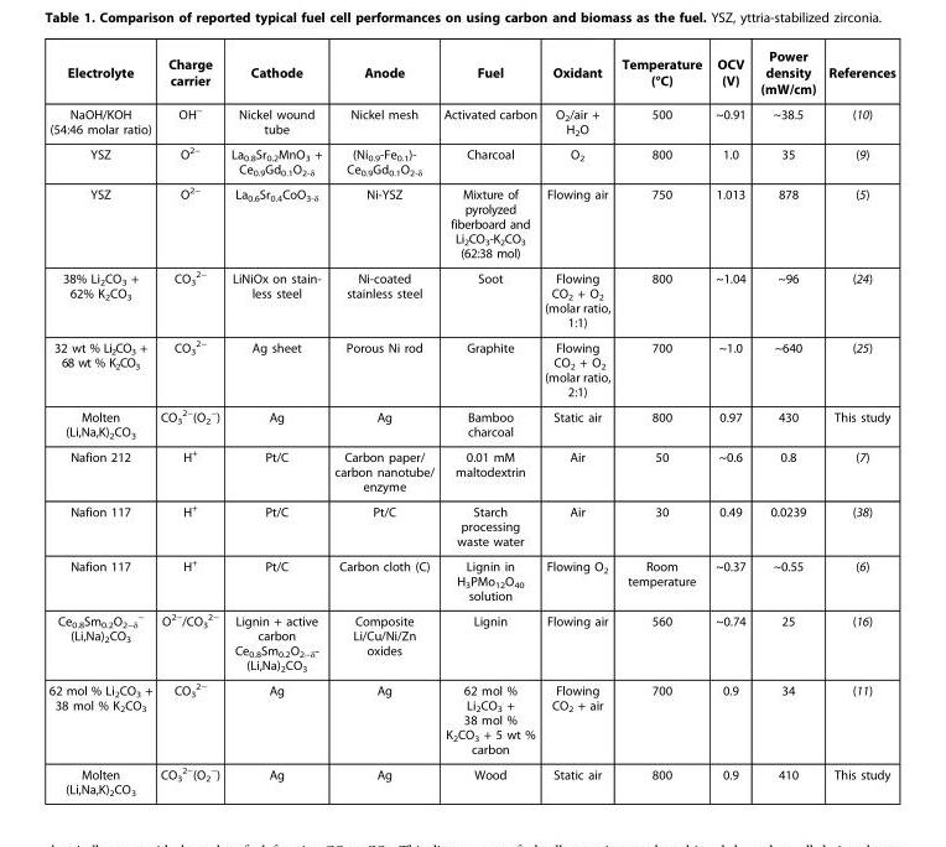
<table><thead><tr><td>Electrolyte</td><td>Charge carrier</td><td>Cathode</td><td>Anode</td><td>Fuel</td><td>Oxidant</td><td>Temperature (°C)</td><td>OCV (V)</td><td>Power density (mW/cm)</td><td>References</td></tr></thead><tbody><tr><td>NaOH/KOH (54:46 molar ratio)</td><td>OH<sup>−</sup></td><td>Nickel wound tube</td><td>Nickel mesh</td><td>Activated carbon</td><td>O<sub>2</sub>/air + H<sub>2</sub>O</td><td>500</td><td>~0.91</td><td>~38.5</td><td>(10)</td></tr><tr><td>YSZ</td><td>O<sup>2−</sup></td><td>La<sub>0.8</sub>Sr<sub>0.2</sub>MnO<sub>3</sub> + Ce<sub>0.9</sub>Gd<sub>0.1</sub>O<sub>2-δ</sub></td><td>(Ni<sub>0.9</sub>-Fe<sub>0.1</sub>)- Ce<sub>0.9</sub>Gd<sub>0.1</sub>O<sub>2-δ</sub></td><td>Charcoal</td><td>O<sub>2</sub></td><td>800</td><td>1.0</td><td>35</td><td>(9)</td></tr><tr><td>YSZ</td><td>O<sup>2−</sup></td><td>La<sub>0.6</sub>Sr<sub>0.4</sub>CoO<sub>3-δ</sub></td><td>Ni-YSZ</td><td>Mixture of pyrolyzed fiberboard and Li<sub>2</sub>CO<sub>3</sub>-K<sub>2</sub>CO<sub>3</sub> (62:38 mol)</td><td>Flowing air</td><td>750</td><td>1.013</td><td>878</td><td>(5)</td></tr><tr><td>38% Li<sub>2</sub>CO<sub>3</sub> + 62% K<sub>2</sub>CO<sub>3</sub></td><td>CO<sub>3</sub> <sup>2−</sup></td><td>LiNiOx on stain- less steel</td><td>Ni-coated stainless steel</td><td>Soot</td><td>Flowing CO<sub>2</sub> + O<sub>2</sub> (molar ratio, 1:1)</td><td>800</td><td>~1.04</td><td>~96</td><td>(24)</td></tr><tr><td>32 wt % Li<sub>2</sub>CO<sub>3</sub> + 68 wt % K<sub>2</sub>CO<sub>3</sub></td><td>CO<sub>3</sub> <sup>2−</sup></td><td>Ag sheet</td><td>Porous Ni rod</td><td>Graphite</td><td>Flowing CO<sub>2</sub> + O<sub>2</sub> (molar ratio, 2:1)</td><td>700</td><td>~1.0</td><td>~640</td><td>(25)</td></tr><tr><td>Molten (Li,Na,K)<sub>2</sub>CO<sub>3</sub></td><td>CO<sub>3</sub> <sup>2−</sup>(O<sub>2</sub> <sup>−</sup>)</td><td>Ag</td><td>Ag</td><td>Bamboo charcoal</td><td>Static air</td><td>800</td><td>0.97</td><td>430</td><td>This study</td></tr><tr><td>Nafion 212</td><td>H<sup>+</sup></td><td>Pt/C</td><td>Carbon paper/ carbon nanotube/ enzyme</td><td>0.01 mM maltodextrin</td><td>Air</td><td>50</td><td>~0.6</td><td>0.8</td><td>(7)</td></tr><tr><td>Nafion 117</td><td>H<sup>+</sup></td><td>Pt/C</td><td>Pt/C</td><td>Starch processing waste water</td><td>Air</td><td>30</td><td>0.49</td><td>0.0239</td><td>(38)</td></tr><tr><td>Nafion 117</td><td>H<sup>+</sup></td><td>Pt/C</td><td>Carbon cloth (C)</td><td>Lignin in H<sub>3</sub>PMo<sub>12</sub>O<sub>40</sub> solution</td><td>Flowing O<sub>2</sub></td><td>Room temperature</td><td>~0.37</td><td>~0.55</td><td>(6)</td></tr><tr><td>Ce<sub>0.8</sub>Sm<sub>0.2</sub>O<sub>2−δ</sub> <sup>−</sup> (Li,Na)<sub>2</sub>CO<sub>3</sub></td><td>O<sup>2−</sup>/CO<sub>3</sub> <sup>2−</sup></td><td>Lignin + active carbon Ce<sub>0.8</sub>Sm<sub>0.2</sub>O<sub>2−δ</sub>- (Li,Na)<sub>2</sub>CO<sub>3</sub></td><td>Composite Li/Cu/Ni/Zn oxides</td><td>Lignin</td><td>Flowing air</td><td>560</td><td>~0.74</td><td>25</td><td>(16)</td></tr><tr><td>62 mol % Li<sub>2</sub>CO<sub>3</sub> + 38 mol % K<sub>2</sub>CO<sub>3</sub></td><td>CO<sub>3</sub> <sup>2−</sup></td><td>Ag</td><td>Ag</td><td>62 mol % Li<sub>2</sub>CO<sub>3</sub> + 38 mol % K<sub>2</sub>CO<sub>3</sub> + 5 wt % carbon</td><td>Flowing CO<sub>2</sub> + air</td><td>700</td><td>0.9</td><td>34</td><td>(11)</td></tr><tr><td>Molten (Li,Na,K)<sub>2</sub>CO<sub>3</sub></td><td>CO<sub>3</sub> <sup>2−</sup>(O<sub>2</sub> <sup>−</sup>)</td><td>Ag</td><td>Ag</td><td>Wood</td><td>Static air</td><td>800</td><td>0.9</td><td>410</td><td>This study</td></tr></tbody></table>